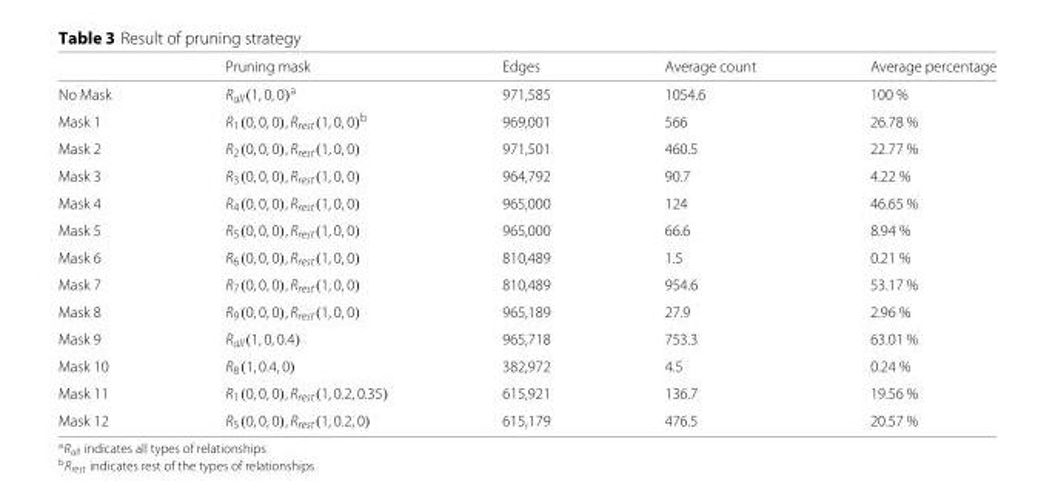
<table><thead><tr><td></td><td>Pruning mask</td><td>Edges</td><td>Average count</td><td>Average percentage</td></tr></thead><tbody><tr><td>No Mask</td><td>R<sub>all</sub>(1, 0, 0)<sup>a</sup></td><td>971,585</td><td>1054.6</td><td>100 %</td></tr><tr><td>Mask 1</td><td>R<sub>1</sub>(0, 0, 0), R<sub>rest</sub>(1, 0, 0)<sup>b</sup></td><td>969,001</td><td>566</td><td>26.78 %</td></tr><tr><td>Mask 2</td><td>R<sub>2</sub>(0, 0, 0), R<sub>rest</sub>(1, 0, 0)</td><td>971,501</td><td>460.5</td><td>22.77 %</td></tr><tr><td>Mask 3</td><td>R<sub>3</sub>(0, 0, 0), R<sub>rest</sub>(1, 0, 0)</td><td>964,792</td><td>90.7</td><td>4.22 %</td></tr><tr><td>Mask 4</td><td>R<sub>4</sub>(0, 0, 0), R<sub>rest</sub>(1, 0, 0)</td><td>965,000</td><td>124</td><td>46.65 %</td></tr><tr><td>Mask 5</td><td>R<sub>5</sub>(0, 0, 0), R<sub>rest</sub>(1, 0, 0)</td><td>965,000</td><td>66.6</td><td>8.94 %</td></tr><tr><td>Mask 6</td><td>R<sub>6</sub>(0, 0, 0), R<sub>rest</sub>(1, 0, 0)</td><td>810,489</td><td>1.5</td><td>0.21 %</td></tr><tr><td>Mask 7</td><td>R<sub>7</sub>(0, 0, 0), R<sub>rest</sub>(1, 0, 0)</td><td>810,489</td><td>954.6</td><td>53.17 %</td></tr><tr><td>Mask 8</td><td>R<sub>9</sub>(0, 0, 0), R<sub>rest</sub>(1, 0, 0)</td><td>965,189</td><td>27.9</td><td>2.96 %</td></tr><tr><td>Mask 9</td><td>R<sub>all</sub>(1, 0, 0.4)</td><td>965,718</td><td>753.3</td><td>63.01 %</td></tr><tr><td>Mask 10</td><td>R<sub>8</sub>(1, 0.4, 0)</td><td>382,972</td><td>4.5</td><td>0.24 %</td></tr><tr><td>Mask 11</td><td>R<sub>1</sub>(0, 0, 0), R<sub>rest</sub>(1, 0.2, 0.35)</td><td>615,921</td><td>136.7</td><td>19.56 %</td></tr><tr><td>Mask 12</td><td>R<sub>5</sub>(0, 0, 0), R<sub>rest</sub>(1, 0.2, 0)</td><td>615,179</td><td>476.5</td><td>20.57 %</td></tr></tbody></table>